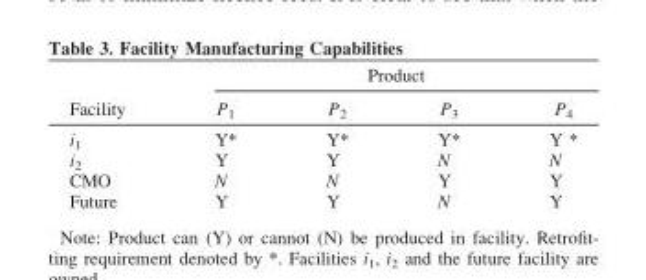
<table><thead><tr><td rowspan="2">Facility</td><td colspan="4">Product</td></tr><tr><td>P<sub>1</sub></td><td>P<sub>2</sub></td><td>P<sub>3</sub></td><td>P<sub>4</sub></td></tr></thead><tbody><tr><td>i<sub>1</sub></td><td>Y*</td><td>Y*</td><td>Y*</td><td>Y *</td></tr><tr><td>i<sub>2</sub></td><td>Y</td><td>Y</td><td>N</td><td>N</td></tr><tr><td>CMO</td><td>N</td><td>N</td><td>Y</td><td>Y</td></tr><tr><td>Future</td><td>Y</td><td>Y</td><td>N</td><td>Y</td></tr></tbody></table>